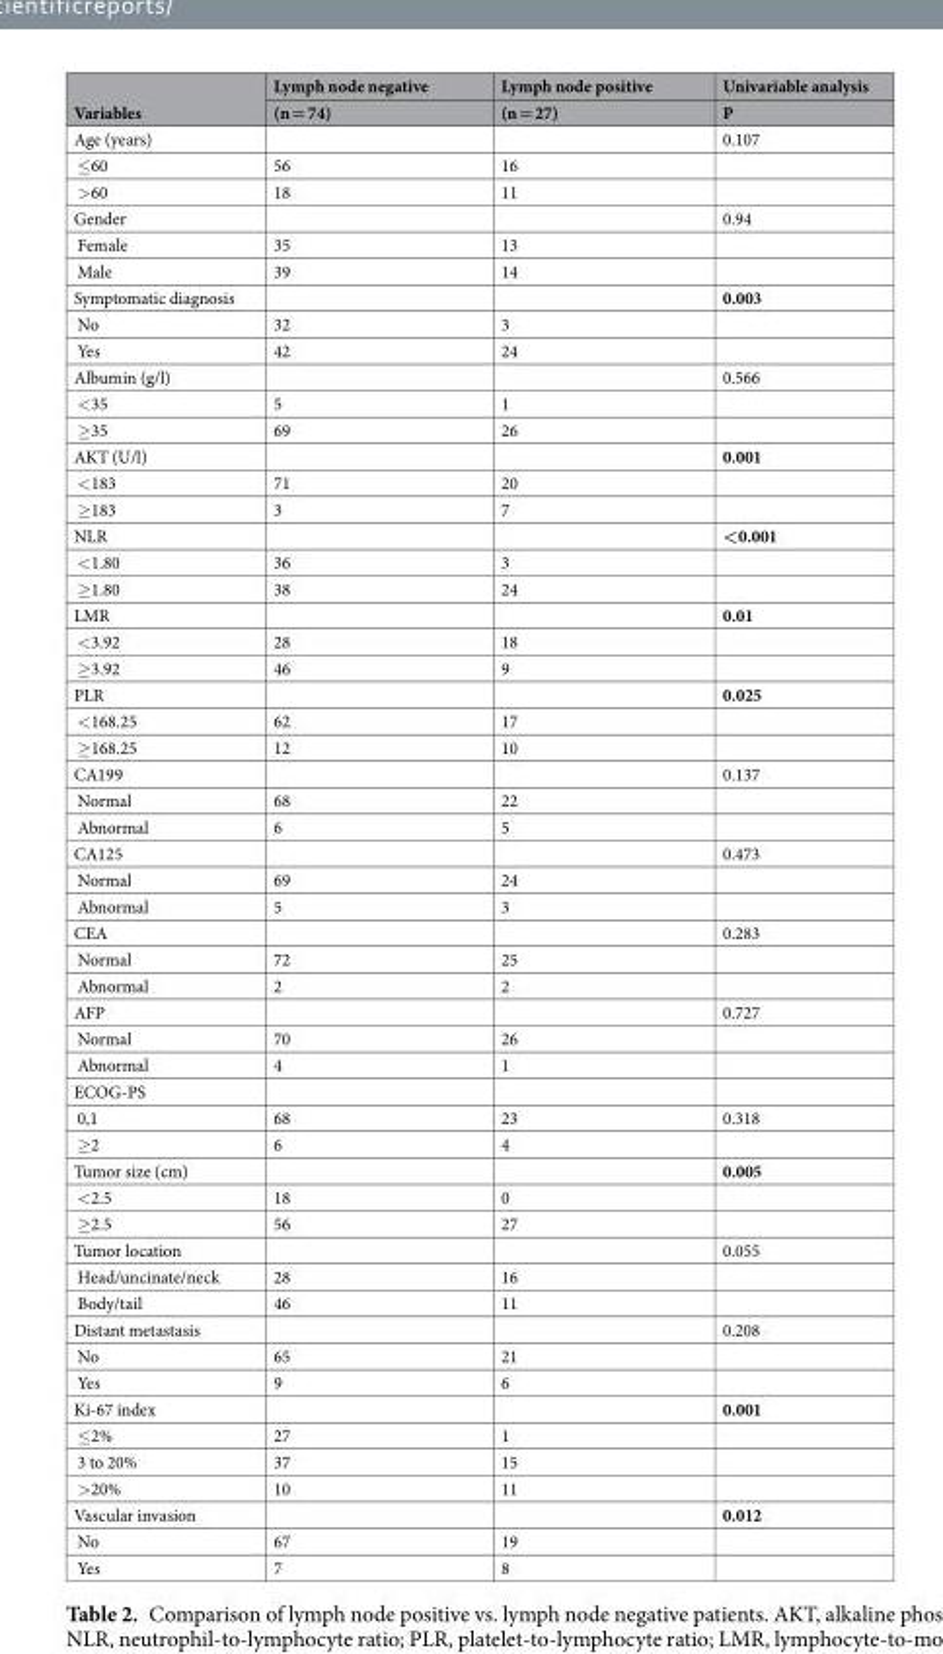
<table><thead><tr><td rowspan="2">Variables</td><td rowspan="2">Lymph node negative (n = 74)</td><td rowspan="2">Lymph node positive (n = 27)</td><td rowspan="2">Univariable analysis P</td></tr><tr></tr></thead><tbody><tr><td>Age (years)</td><td></td><td></td><td>0.107</td></tr><tr><td>≤60</td><td>56</td><td>16</td><td></td></tr><tr><td>&gt;60</td><td>18</td><td>11</td><td></td></tr><tr><td>Gender</td><td></td><td></td><td>0.94</td></tr><tr><td>Female</td><td>35</td><td>13</td><td></td></tr><tr><td>Male</td><td>39</td><td>14</td><td></td></tr><tr><td>Symptomatic diagnosis</td><td></td><td></td><td>0.003</td></tr><tr><td>No</td><td>32</td><td>3</td><td></td></tr><tr><td>Yes</td><td>42</td><td>24</td><td></td></tr><tr><td>Albumin (g/l)</td><td></td><td></td><td>0.566</td></tr><tr><td>&lt;35</td><td>5</td><td>1</td><td></td></tr><tr><td>≥35</td><td>69</td><td>26</td><td></td></tr><tr><td>AKT (U/l)</td><td></td><td></td><td>0.001</td></tr><tr><td>&lt;183</td><td>71</td><td>20</td><td></td></tr><tr><td>≥183</td><td>3</td><td>7</td><td></td></tr><tr><td>NLR</td><td></td><td></td><td>&lt;0.001</td></tr><tr><td>&lt;1.80</td><td>36</td><td>3</td><td></td></tr><tr><td>≥1.80</td><td>38</td><td>24</td><td></td></tr><tr><td>LMR</td><td></td><td></td><td>0.01</td></tr><tr><td>&lt;3.92</td><td>28</td><td>18</td><td></td></tr><tr><td>≥3.92</td><td>46</td><td>9</td><td></td></tr><tr><td>PLR</td><td></td><td></td><td>0.025</td></tr><tr><td>&lt;168.25</td><td>62</td><td>17</td><td></td></tr><tr><td>≥168.25</td><td>12</td><td>10</td><td></td></tr><tr><td>CA199</td><td></td><td></td><td>0.137</td></tr><tr><td>Normal</td><td>68</td><td>22</td><td></td></tr><tr><td>Abnormal</td><td>6</td><td>5</td><td></td></tr><tr><td>CA125</td><td></td><td></td><td>0.473</td></tr><tr><td>Normal</td><td>69</td><td>24</td><td></td></tr><tr><td>Abnormal</td><td>5</td><td>3</td><td></td></tr><tr><td>CEA</td><td></td><td></td><td>0.283</td></tr><tr><td>Normal</td><td>72</td><td>25</td><td></td></tr><tr><td>Abnormal</td><td>2</td><td>2</td><td></td></tr><tr><td>AFP</td><td></td><td></td><td>0.727</td></tr><tr><td>Normal</td><td>70</td><td>26</td><td></td></tr><tr><td>Abnormal</td><td>4</td><td>1</td><td></td></tr><tr><td colspan="4">ECOG-PS</td></tr><tr><td>0,1</td><td>68</td><td>23</td><td>0.318</td></tr><tr><td>≥2</td><td>6</td><td>4</td><td></td></tr><tr><td>Tumor size (cm)</td><td></td><td></td><td>0.005</td></tr><tr><td>&lt;2.5</td><td>18</td><td>0</td><td></td></tr><tr><td>≥2.5</td><td>56</td><td>27</td><td></td></tr><tr><td>Tumor location</td><td></td><td></td><td>0.055</td></tr><tr><td>Head/uncinate/neck</td><td>28</td><td>16</td><td></td></tr><tr><td>Body/tail</td><td>46</td><td>11</td><td></td></tr><tr><td>Distant metastasis</td><td></td><td></td><td>0.208</td></tr><tr><td>No</td><td>65</td><td>21</td><td></td></tr><tr><td>Yes</td><td>9</td><td>6</td><td></td></tr><tr><td>Ki-67 index</td><td></td><td></td><td>0.001</td></tr><tr><td>≤2%</td><td>27</td><td>1</td><td></td></tr><tr><td>3 to 20%</td><td>37</td><td>15</td><td></td></tr><tr><td>&gt;20%</td><td>10</td><td>11</td><td></td></tr><tr><td>Vascular invasion</td><td></td><td></td><td>0.012</td></tr><tr><td>No</td><td>67</td><td>19</td><td></td></tr><tr><td>Yes</td><td>7</td><td>8</td><td></td></tr></tbody></table>